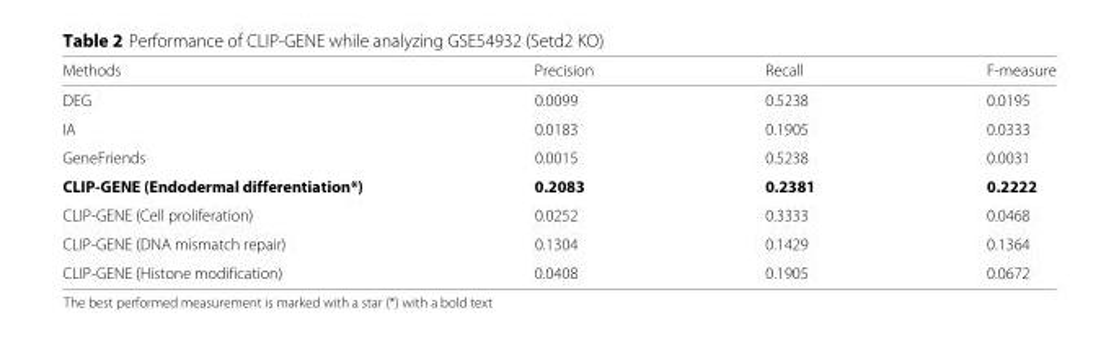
<table><thead><tr><td>Methods</td><td>Precision</td><td>Recall</td><td>F-measure</td></tr></thead><tbody><tr><td>DEG</td><td>0.0099</td><td>0.5238</td><td>0.0195</td></tr><tr><td>IA</td><td>0.0183</td><td>0.1905</td><td>0.0333</td></tr><tr><td>GeneFriends</td><td>0.0015</td><td>0.5238</td><td>0.0031</td></tr><tr><td>CLIP-GENE (Endodermal differentiation*)</td><td>0.2083</td><td>0.2381</td><td>0.2222</td></tr><tr><td>CLIP-GENE (Cell proliferation)</td><td>0.0252</td><td>0.3333</td><td>0.0468</td></tr><tr><td>CLIP-GENE (DNA mismatch repair)</td><td>0.1304</td><td>0.1429</td><td>0.1364</td></tr><tr><td>CLIP-GENE (Histone modification)</td><td>0.0408</td><td>0.1905</td><td>0.0672</td></tr></tbody></table>